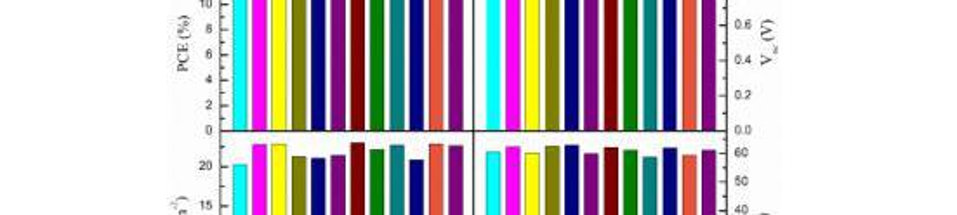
<table><thead><tr><td>Samples</td><td>V<sub>OC</sub> (V)</td><td>J<sub>SC</sub> (mA/cm<sup>2</sup>)</td><td>PCE (%)</td><td>FF (%)</td></tr></thead><tbody><tr><td>Forward-reverse</td><td>1.02</td><td>22.23</td><td>13.88</td><td>61.21</td></tr><tr><td>Reverse- forward</td><td>1.00</td><td>22.22</td><td>13.50</td><td>60.76</td></tr></tbody></table>